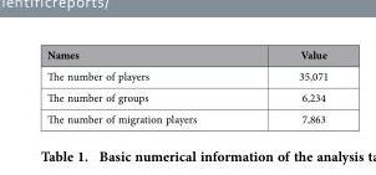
<table><thead><tr><td>Names</td><td>Value</td></tr></thead><tbody><tr><td>The number of players</td><td>35,071</td></tr><tr><td>The number of groups</td><td>6,234</td></tr><tr><td>The number of migration players</td><td>7,863</td></tr></tbody></table>